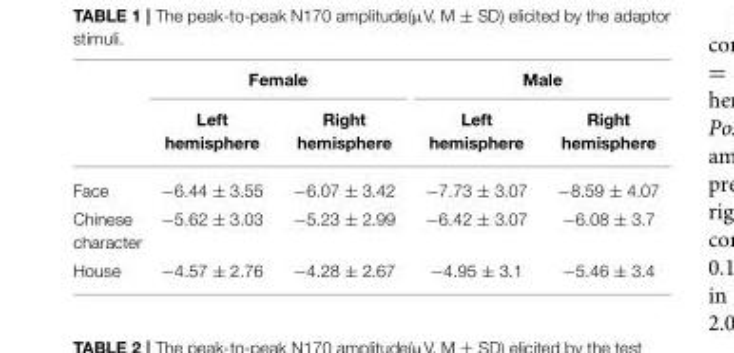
<table><thead><tr><td rowspan="2"></td><td colspan="2">Female</td><td colspan="2">Male</td></tr><tr><td>Left hemisphere</td><td>Right hemisphere</td><td>Left hemisphere</td><td>Right hemisphere</td></tr></thead><tbody><tr><td>Face</td><td>−6.44 ± 3.55</td><td>−6.07 ± 3.42</td><td>−7.73 ± 3.07</td><td>−8.59 ± 4.07</td></tr><tr><td>Chinese character</td><td>−5.62 ± 3.03</td><td>−5.23 ± 2.99</td><td>−6.42 ± 3.07</td><td>−6.08 ± 3.7</td></tr><tr><td>House</td><td>−4.57 ± 2.76</td><td>−4.28 ± 2.67</td><td>−4.95 ± 3.1</td><td>−5.46 ± 3.4</td></tr></tbody></table>